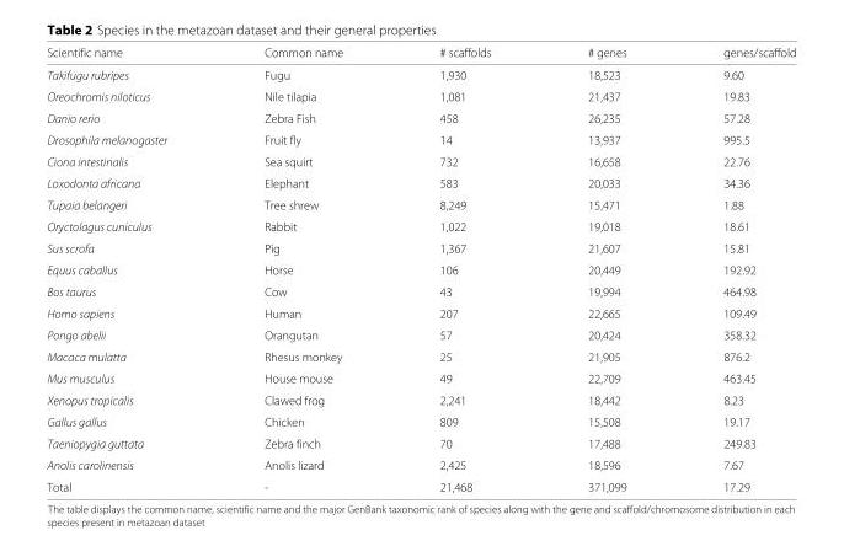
<table><thead><tr><td>Scientific name</td><td>Common name</td><td># scaffolds</td><td># genes</td><td>genes/scaffold</td></tr></thead><tbody><tr><td>Takifugu rubripes</td><td>Fugu</td><td>1,930</td><td>18,523</td><td>9.60</td></tr><tr><td>Oreochromis niloticus</td><td>Nile tilapia</td><td>1,081</td><td>21,437</td><td>19.83</td></tr><tr><td>Danio rerio</td><td>Zebra Fish</td><td>458</td><td>26,235</td><td>57.28</td></tr><tr><td>Drosophila melanogaster</td><td>Fruit fly</td><td>14</td><td>13,937</td><td>995.5</td></tr><tr><td>Ciona intestinalis</td><td>Sea squirt</td><td>732</td><td>16,658</td><td>22.76</td></tr><tr><td>Loxodonta africana</td><td>Elephant</td><td>583</td><td>20,033</td><td>34.36</td></tr><tr><td>Tupaia belangeri</td><td>Tree shrew</td><td>8,249</td><td>15,471</td><td>1.88</td></tr><tr><td>Oryctolagus cuniculus</td><td>Rabbit</td><td>1,022</td><td>19,018</td><td>18.61</td></tr><tr><td>Sus scrofa</td><td>Pig</td><td>1,367</td><td>21,607</td><td>15.81</td></tr><tr><td>Equus caballus</td><td>Horse</td><td>106</td><td>20,449</td><td>192.92</td></tr><tr><td>Bos taurus</td><td>Cow</td><td>43</td><td>19,994</td><td>464.98</td></tr><tr><td>Homo sapiens</td><td>Human</td><td>207</td><td>22,665</td><td>109.49</td></tr><tr><td>Pongo abelii</td><td>Orangutan</td><td>57</td><td>20,424</td><td>358.32</td></tr><tr><td>Macaca mulatta</td><td>Rhesus monkey</td><td>25</td><td>21,905</td><td>876.2</td></tr><tr><td>Mus musculus</td><td>House mouse</td><td>49</td><td>22,709</td><td>463.45</td></tr><tr><td>Xenopus tropicalis</td><td>Clawed frog</td><td>2,241</td><td>18,442</td><td>8.23</td></tr><tr><td>Gallus gallus</td><td>Chicken</td><td>809</td><td>15,508</td><td>19.17</td></tr><tr><td>Taeniopygia guttata</td><td>Zebra finch</td><td>70</td><td>17,488</td><td>249.83</td></tr><tr><td>Anolis carolinensis</td><td>Anolis lizard</td><td>2,425</td><td>18,596</td><td>7.67</td></tr><tr><td>Total</td><td>-</td><td>21,468</td><td>371,099</td><td>17.29</td></tr></tbody></table>